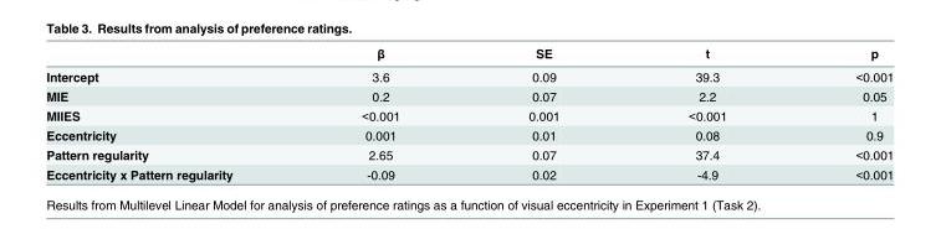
<table><thead><tr><td></td><td>β</td><td>SE</td><td>t</td><td>p</td></tr></thead><tbody><tr><td>Intercept</td><td>3.6</td><td>0.09</td><td>39.3</td><td>&lt;0.001</td></tr><tr><td>MIE</td><td>0.2</td><td>0.07</td><td>2.2</td><td>0.05</td></tr><tr><td>MIIES</td><td>&lt;0.001</td><td>0.001</td><td>&lt;0.001</td><td>1</td></tr><tr><td>Eccentricity</td><td>0.001</td><td>0.01</td><td>0.08</td><td>0.9</td></tr><tr><td>Pattern regularity</td><td>2.65</td><td>0.07</td><td>37.4</td><td>&lt;0.001</td></tr><tr><td>Eccentricity x Pattern regularity</td><td>-0.09</td><td>0.02</td><td>-4.9</td><td>&lt;0.001</td></tr></tbody></table>